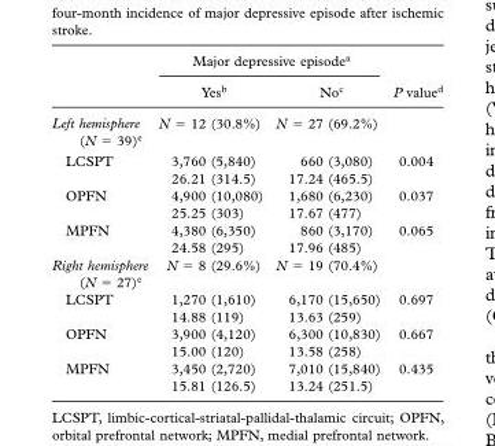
<table><thead><tr><td rowspan="2"></td><td colspan="2">Major depressive episode<sup>a</sup></td><td rowspan="2">P value<sup>d</sup></td></tr><tr><td>Yes<sup>b</sup></td><td>No<sup>c</sup></td></tr></thead><tbody><tr><td>Left hemisphere (N = 39)<sup>e</sup></td><td>N = 12 (30.8%)</td><td>N = 27 (69.2%)</td><td></td></tr><tr><td rowspan="2">LCSPT</td><td>3,760 (5,840)</td><td>660 (3,080)</td><td>0.004</td></tr><tr><td>26.21 (314.5)</td><td>17.24 (465.5)</td><td></td></tr><tr><td rowspan="2">OPFN</td><td>4,900 (10,080)</td><td>1,680 (6,230)</td><td>0.037</td></tr><tr><td>25.25 (303)</td><td>17.67 (477)</td><td></td></tr><tr><td rowspan="2">MPFN</td><td>4,380 (6,350)</td><td>860 (3,170)</td><td>0.065</td></tr><tr><td>24.58 (295)</td><td>17.96 (485)</td><td></td></tr><tr><td>Right hemisphere (N = 27)<sup>e</sup></td><td>N = 8 (29.6%)</td><td>N = 19 (70.4%)</td><td></td></tr><tr><td rowspan="2">LCSPT</td><td>1,270 (1,610)</td><td>6,170 (15,650)</td><td>0.697</td></tr><tr><td>14.88 (119)</td><td>13.63 (259)</td><td></td></tr><tr><td rowspan="2">OPFN</td><td>3,900 (4,120)</td><td>6,300 (10,830)</td><td>0.667</td></tr><tr><td>15.00 (120)</td><td>13.58 (258)</td><td></td></tr><tr><td rowspan="2">MPFN</td><td>3,450 (2,720)</td><td>7,010 (15,840)</td><td>0.435</td></tr><tr><td>15.81 (126.5)</td><td>13.24 (251.5)</td><td></td></tr></tbody></table>